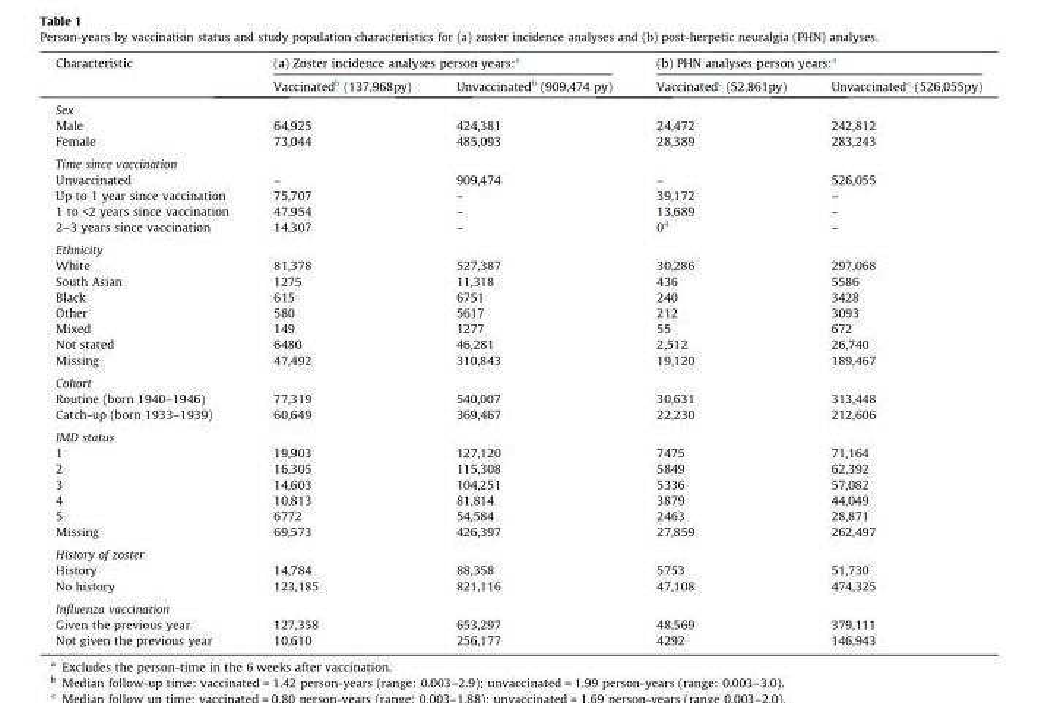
<table><thead><tr><td rowspan="2">Characteristic</td><td colspan="2">(a) Zoster incidence analyses person years:<sup>a</sup></td><td colspan="2">(b) PHN analyses person years:<sup>a</sup></td></tr><tr><td>Vaccinated<sup>b</sup> (137,968py)</td><td>Unvaccinated<sup>b</sup> (909,474 py)</td><td>Vaccinated<sup>c</sup> (52,861py)</td><td>Unvaccinated<sup>c</sup> (526,055py)</td></tr></thead><tbody><tr><td colspan="5">Sex</td></tr><tr><td>Male</td><td>64,925</td><td>424,381</td><td>24,472</td><td>242,812</td></tr><tr><td>Female</td><td>73,044</td><td>485,093</td><td>28,389</td><td>283,243</td></tr><tr><td colspan="5">Time since vaccination</td></tr><tr><td>Unvaccinated</td><td>–</td><td>909,474</td><td>–</td><td>526,055</td></tr><tr><td>Up to 1 year since vaccination</td><td>75,707</td><td>–</td><td>39,172</td><td>–</td></tr><tr><td>1 to &lt;2 years since vaccination</td><td>47,954</td><td>–</td><td>13,689</td><td>–</td></tr><tr><td>2–3 years since vaccination</td><td>14,307</td><td>–</td><td>0<sup>4</sup></td><td>–</td></tr><tr><td colspan="5">Ethnicity</td></tr><tr><td>White</td><td>81,378</td><td>527,387</td><td>30,286</td><td>297,068</td></tr><tr><td>South Asian</td><td>1275</td><td>11,318</td><td>436</td><td>5586</td></tr><tr><td>Black</td><td>615</td><td>6751</td><td>240</td><td>3428</td></tr><tr><td>Other</td><td>580</td><td>5617</td><td>212</td><td>3093</td></tr><tr><td>Mixed</td><td>149</td><td>1277</td><td>55</td><td>672</td></tr><tr><td>Not stated</td><td>6480</td><td>46,281</td><td>2,512</td><td>26,740</td></tr><tr><td>Missing</td><td>47,492</td><td>310,843</td><td>19,120</td><td>189,467</td></tr><tr><td colspan="5">Cohort</td></tr><tr><td>Routine (born 1940–1946)</td><td>77,319</td><td>540,007</td><td>30,631</td><td>313,448</td></tr><tr><td>Catch-up (born 1933–1939)</td><td>60,649</td><td>369,467</td><td>22,230</td><td>212,606</td></tr><tr><td colspan="5">IMD status</td></tr><tr><td>1</td><td>19,903</td><td>127,120</td><td>7475</td><td>71,164</td></tr><tr><td>2</td><td>16,305</td><td>115,308</td><td>5849</td><td>62,392</td></tr><tr><td>3</td><td>14,603</td><td>104,251</td><td>5336</td><td>57,082</td></tr><tr><td>4</td><td>10,813</td><td>81,814</td><td>3879</td><td>44,049</td></tr><tr><td>5</td><td>6772</td><td>54,584</td><td>2463</td><td>28,871</td></tr><tr><td>Missing</td><td>69,573</td><td>426,397</td><td>27,859</td><td>262,497</td></tr><tr><td colspan="5">History of zoster</td></tr><tr><td>History</td><td>14,784</td><td>88,358</td><td>5753</td><td>51,730</td></tr><tr><td>No history</td><td>123,185</td><td>821,116</td><td>47,108</td><td>474,325</td></tr><tr><td colspan="5">Influenza vaccination</td></tr><tr><td>Given the previous year</td><td>127,358</td><td>653,297</td><td>48,569</td><td>379,111</td></tr><tr><td>Not given the previous year</td><td>10,610</td><td>256,177</td><td>4292</td><td>146,943</td></tr></tbody></table>